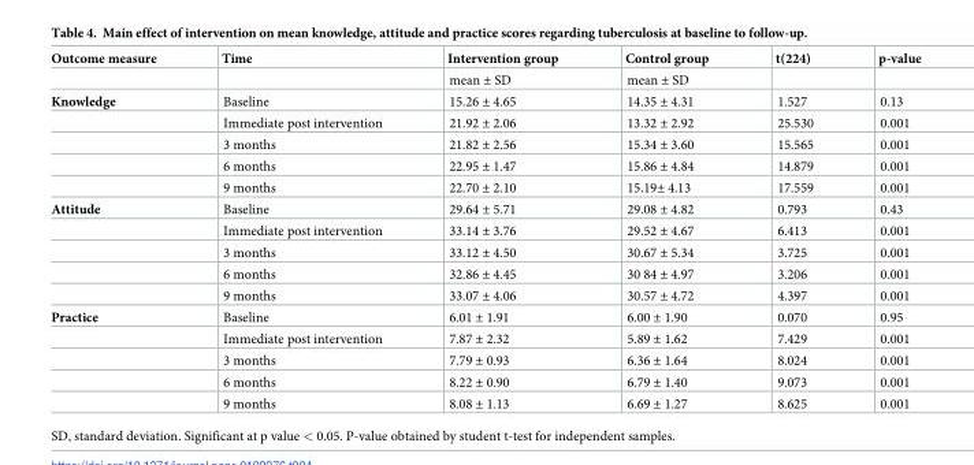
<table><thead><tr><td>Outcome measure</td><td>Time</td><td>Intervention group</td><td>Control group</td><td>t(224)</td><td>p-value</td></tr></thead><tbody><tr><td></td><td></td><td>mean ± SD</td><td>mean ± SD</td><td></td><td></td></tr><tr><td rowspan="5">Knowledge</td><td>Baseline</td><td>15.26 ± 4.65</td><td>14.35 ± 4.31</td><td>1.527</td><td>0.13</td></tr><tr><td>Immediate post intervention</td><td>21.92 ± 2.06</td><td>13.32 ± 2.92</td><td>25.530</td><td>0.001</td></tr><tr><td>3 months</td><td>21.82 ± 2.56</td><td>15.34 ± 3.60</td><td>15.565</td><td>0.001</td></tr><tr><td>6 months</td><td>22.95 ± 1.47</td><td>15.86 ± 4.84</td><td>14.879</td><td>0.001</td></tr><tr><td>9 months</td><td>22.70 ± 2.10</td><td>15.19± 4.13</td><td>17.559</td><td>0.001</td></tr><tr><td rowspan="5">Attitude</td><td>Baseline</td><td>29.64 ± 5.71</td><td>29.08 ± 4.82</td><td>0.793</td><td>0.43</td></tr><tr><td>Immediate post intervention</td><td>33.14 ± 3.76</td><td>29.52 ± 4.67</td><td>6.413</td><td>0.001</td></tr><tr><td>3 months</td><td>33.12 ± 4.50</td><td>30.67 ± 5.34</td><td>3.725</td><td>0.001</td></tr><tr><td>6 months</td><td>32.86 ± 4.45</td><td>30 84 ± 4.97</td><td>3.206</td><td>0.001</td></tr><tr><td>9 months</td><td>33.07 ± 4.06</td><td>30.57 ± 4.72</td><td>4.397</td><td>0.001</td></tr><tr><td rowspan="5">Practice</td><td>Baseline</td><td>6.01 ± 1.91</td><td>6.00 ± 1.90</td><td>0.070</td><td>0.95</td></tr><tr><td>Immediate post intervention</td><td>7.87 ± 2.32</td><td>5.89 ± 1.62</td><td>7.429</td><td>0.001</td></tr><tr><td>3 months</td><td>7.79 ± 0.93</td><td>6.36 ± 1.64</td><td>8.024</td><td>0.001</td></tr><tr><td>6 months</td><td>8.22 ± 0.90</td><td>6.79 ± 1.40</td><td>9.073</td><td>0.001</td></tr><tr><td>9 months</td><td>8.08 ± 1.13</td><td>6.69 ± 1.27</td><td>8.625</td><td>0.001</td></tr></tbody></table>